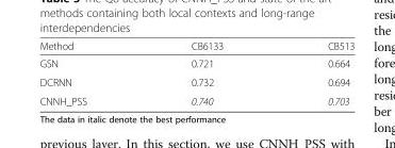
<table><thead><tr><td>Method</td><td>CB6133</td><td>CB513</td></tr></thead><tbody><tr><td>GSN</td><td>0.721</td><td>0.664</td></tr><tr><td>DCRNN</td><td>0.732</td><td>0.694</td></tr><tr><td>CNNH_PSS</td><td>0.740</td><td>0.703</td></tr></tbody></table>